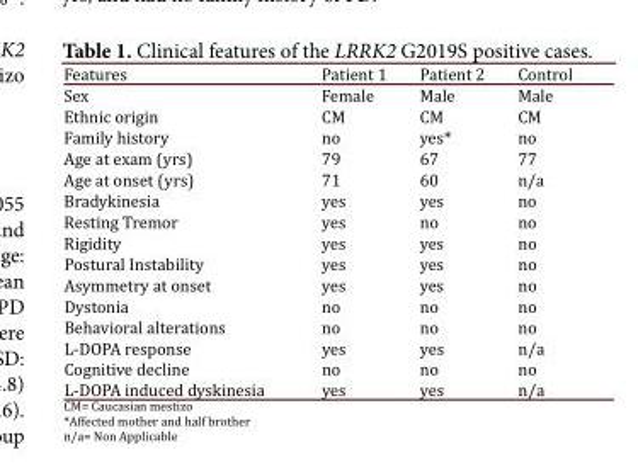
<table><tbody><tr><td>Features</td><td>Patient 1</td><td>Patient 2</td><td>Control</td></tr><tr><td>Sex</td><td>Female</td><td>Male</td><td>Male</td></tr><tr><td>Ethnic origin</td><td>CM</td><td>CM</td><td>CM</td></tr><tr><td>Family history</td><td>no</td><td>yes*</td><td>no</td></tr><tr><td>Age at exam (yrs)</td><td>79</td><td>67</td><td>77</td></tr><tr><td>Age at onset (yrs)</td><td>71</td><td>60</td><td>n/a</td></tr><tr><td>Bradykinesia</td><td>yes</td><td>yes</td><td>no</td></tr><tr><td>Resting Tremor</td><td>yes</td><td>no</td><td>no</td></tr><tr><td>Rigidity</td><td>yes</td><td>yes</td><td>no</td></tr><tr><td>Postural Instability</td><td>yes</td><td>yes</td><td>no</td></tr><tr><td>Asymmetry at onset</td><td>yes</td><td>yes</td><td>no</td></tr><tr><td>Dystonia</td><td>no</td><td>no</td><td>no</td></tr><tr><td>Behavioral alterations</td><td>no</td><td>no</td><td>no</td></tr><tr><td>L-DOPA response</td><td>yes</td><td>yes</td><td>n/a</td></tr><tr><td>Cognitive decline</td><td>no</td><td>no</td><td>no</td></tr><tr><td>L-DOPA induced dyskinesia</td><td>yes</td><td>yes</td><td>n/a</td></tr></tbody></table>